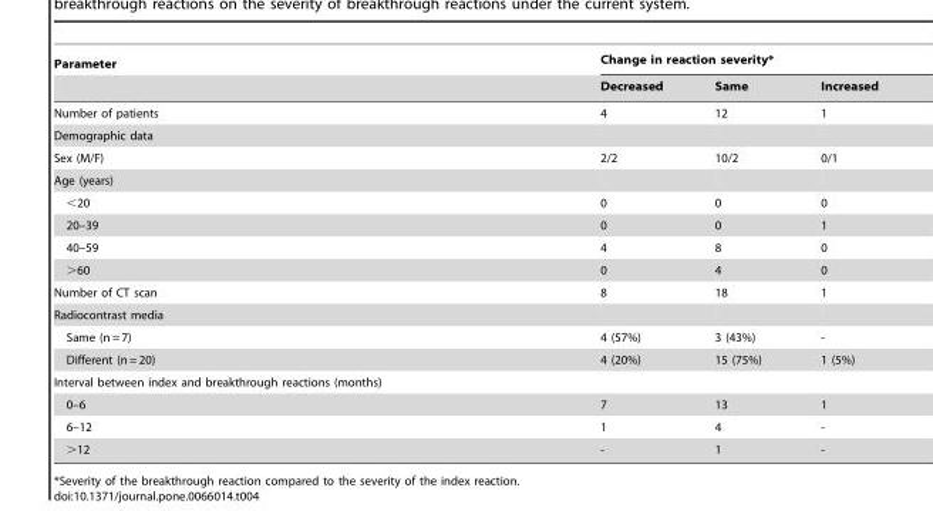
<table><thead><tr><td rowspan="2">Parameter</td><td colspan="3">Change in reaction severity*</td></tr><tr><td>Decreased</td><td>Same</td><td>Increased</td></tr></thead><tbody><tr><td>Number of patients</td><td>4</td><td>12</td><td>1</td></tr><tr><td colspan="4">Demographic data</td></tr><tr><td>Sex (M/F)</td><td>2/2</td><td>10/2</td><td>0/1</td></tr><tr><td colspan="4">Age (years)</td></tr><tr><td>&lt;20</td><td>0</td><td>0</td><td>0</td></tr><tr><td>20–39</td><td>0</td><td>0</td><td>1</td></tr><tr><td>40–59</td><td>4</td><td>8</td><td>0</td></tr><tr><td>&gt;60</td><td>0</td><td>4</td><td>0</td></tr><tr><td>Number of CT scan</td><td>8</td><td>18</td><td>1</td></tr><tr><td colspan="4">Radiocontrast media</td></tr><tr><td>Same (n = 7)</td><td>4 (57%)</td><td>3 (43%)</td><td>-</td></tr><tr><td>Different (n = 20)</td><td>4 (20%)</td><td>15 (75%)</td><td>1 (5%)</td></tr><tr><td colspan="4">Interval between index and breakthrough reactions (months)</td></tr><tr><td>0–6</td><td>7</td><td>13</td><td>1</td></tr><tr><td>6–12</td><td>1</td><td>4</td><td>-</td></tr><tr><td>&gt;12</td><td>-</td><td>1</td><td>-</td></tr></tbody></table>